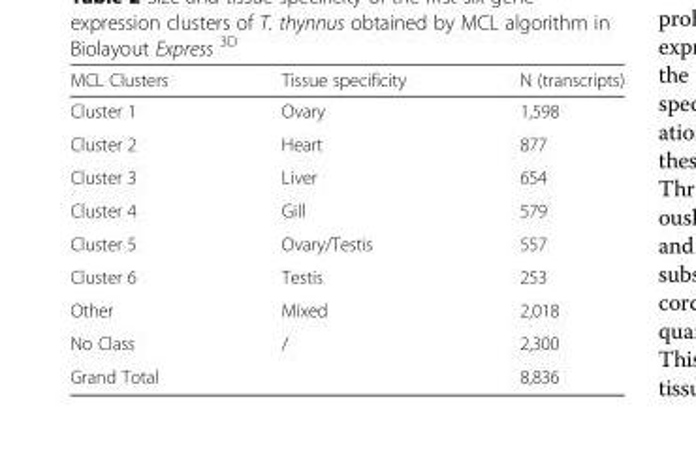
<table><thead><tr><td>MCL Clusters</td><td>Tissue specificity</td><td>N (transcripts)</td></tr></thead><tbody><tr><td>Cluster 1</td><td>Ovary</td><td>1,598</td></tr><tr><td>Cluster 2</td><td>Heart</td><td>877</td></tr><tr><td>Cluster 3</td><td>Liver</td><td>654</td></tr><tr><td>Cluster 4</td><td>Gill</td><td>579</td></tr><tr><td>Cluster 5</td><td>Ovary/Testis</td><td>557</td></tr><tr><td>Cluster 6</td><td>Testis</td><td>253</td></tr><tr><td>Other</td><td>Mixed</td><td>2,018</td></tr><tr><td>No Class</td><td>/</td><td>2,300</td></tr><tr><td>Grand Total</td><td></td><td>8,836</td></tr></tbody></table>